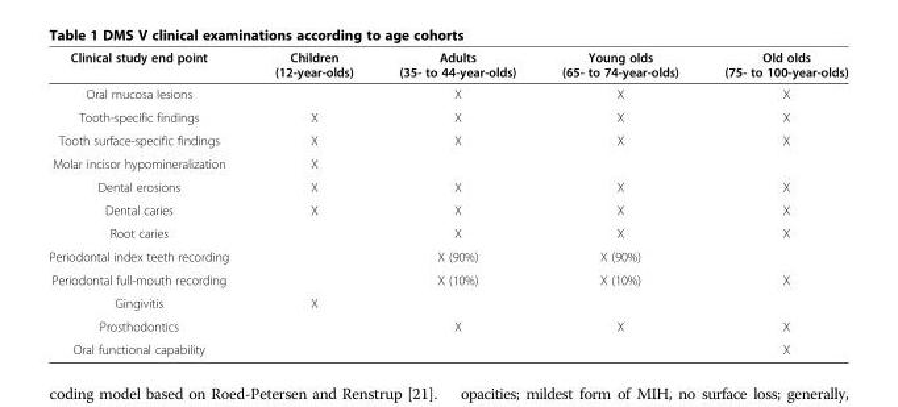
<table><thead><tr><td>Clinical study end point</td><td>Children (12-year-olds)</td><td>Adults (35- to 44-year-olds)</td><td>Young olds (65- to 74-year-olds)</td><td>Old olds (75- to 100-year-olds)</td></tr></thead><tbody><tr><td>Oral mucosa lesions</td><td></td><td>X</td><td>X</td><td>X</td></tr><tr><td>Tooth-specific findings</td><td>X</td><td>X</td><td>X</td><td>X</td></tr><tr><td>Tooth surface-specific findings</td><td>X</td><td>X</td><td>X</td><td>X</td></tr><tr><td>Molar incisor hypomineralization</td><td>X</td><td></td><td></td><td></td></tr><tr><td>Dental erosions</td><td>X</td><td>X</td><td>X</td><td>X</td></tr><tr><td>Dental caries</td><td>X</td><td>X</td><td>X</td><td>X</td></tr><tr><td>Root caries</td><td></td><td>X</td><td>X</td><td>X</td></tr><tr><td>Periodontal index teeth recording</td><td></td><td>X (90%)</td><td>X (90%)</td><td></td></tr><tr><td>Periodontal full-mouth recording</td><td></td><td>X (10%)</td><td>X (10%)</td><td>X</td></tr><tr><td>Gingivitis</td><td>X</td><td></td><td></td><td></td></tr><tr><td>Prosthodontics</td><td></td><td>X</td><td>X</td><td>X</td></tr><tr><td>Oral functional capability</td><td></td><td></td><td></td><td>X</td></tr></tbody></table>